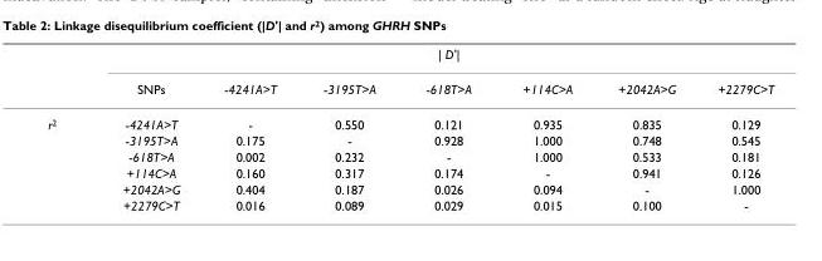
<table><thead><tr><td rowspan="2"></td><td colspan="7">| D&#x27;|</td></tr><tr><td>SNPs</td><td>-4241A&gt;T</td><td>-3195T&gt;A</td><td>-618T&gt;A</td><td>+114C&gt;A</td><td>+2042A&gt;G</td><td>+2279C&gt;T</td></tr></thead><tbody><tr><td rowspan="6">r<sup>2</sup></td><td>-4241A&gt;T</td><td>-</td><td>0.550</td><td>0.121</td><td>0.935</td><td>0.835</td><td>0.129</td></tr><tr><td>-3195T&gt;A</td><td>0.175</td><td>-</td><td>0.928</td><td>1.000</td><td>0.748</td><td>0.545</td></tr><tr><td>-618T&gt;A</td><td>0.002</td><td>0.232</td><td>-</td><td>1.000</td><td>0.533</td><td>0.181</td></tr><tr><td>+114C&gt;A</td><td>0.160</td><td>0.317</td><td>0.174</td><td>-</td><td>0.941</td><td>0.126</td></tr><tr><td>+2042A&gt;G</td><td>0.404</td><td>0.187</td><td>0.026</td><td>0.094</td><td>-</td><td>1.000</td></tr><tr><td>+2279C&gt;T</td><td>0.016</td><td>0.089</td><td>0.029</td><td>0.015</td><td>0.100</td><td>-</td></tr></tbody></table>